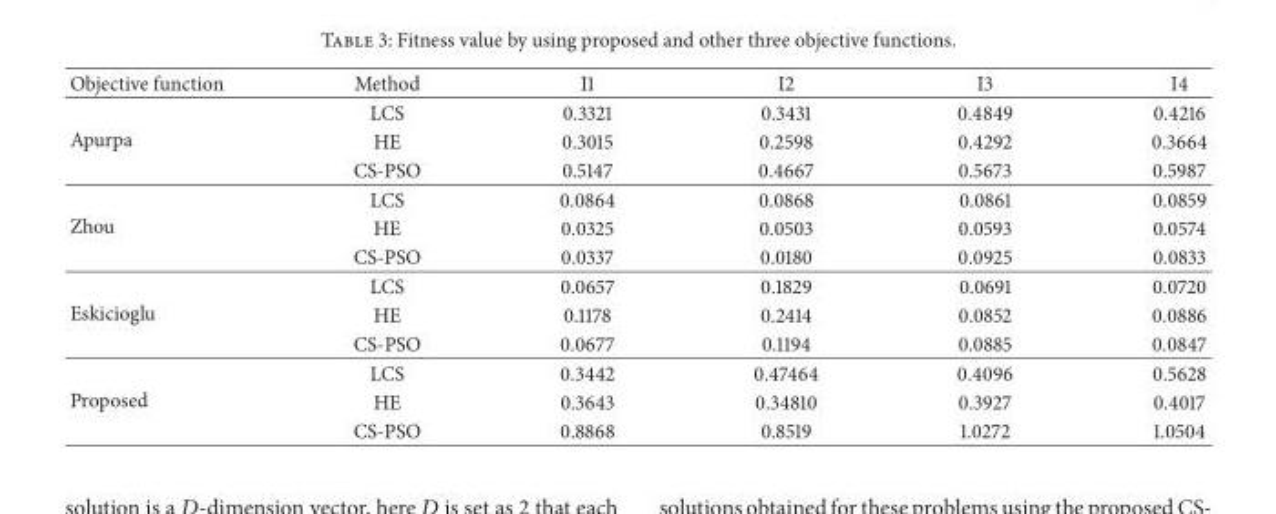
<table><thead><tr><td>Objective function</td><td>Method</td><td>I1</td><td>I2</td><td>I3</td><td>I4</td></tr></thead><tbody><tr><td rowspan="3">Apurpa</td><td>LCS</td><td>0.3321</td><td>0.3431</td><td>0.4849</td><td>0.4216</td></tr><tr><td>HE</td><td>0.3015</td><td>0.2598</td><td>0.4292</td><td>0.3664</td></tr><tr><td>CS-PSO</td><td>0.5147</td><td>0.4667</td><td>0.5673</td><td>0.5987</td></tr><tr><td rowspan="3">Zhou</td><td>LCS</td><td>0.0864</td><td>0.0868</td><td>0.0861</td><td>0.0859</td></tr><tr><td>HE</td><td>0.0325</td><td>0.0503</td><td>0.0593</td><td>0.0574</td></tr><tr><td>CS-PSO</td><td>0.0337</td><td>0.0180</td><td>0.0925</td><td>0.0833</td></tr><tr><td rowspan="3">Eskicioglu</td><td>LCS</td><td>0.0657</td><td>0.1829</td><td>0.0691</td><td>0.0720</td></tr><tr><td>HE</td><td>0.1178</td><td>0.2414</td><td>0.0852</td><td>0.0886</td></tr><tr><td>CS-PSO</td><td>0.0677</td><td>0.1194</td><td>0.0885</td><td>0.0847</td></tr><tr><td rowspan="3">Proposed</td><td>LCS</td><td>0.3442</td><td>0.47464</td><td>0.4096</td><td>0.5628</td></tr><tr><td>HE</td><td>0.3643</td><td>0.34810</td><td>0.3927</td><td>0.4017</td></tr><tr><td>CS-PSO</td><td>0.8868</td><td>0.8519</td><td>1.0272</td><td>1.0504</td></tr></tbody></table>